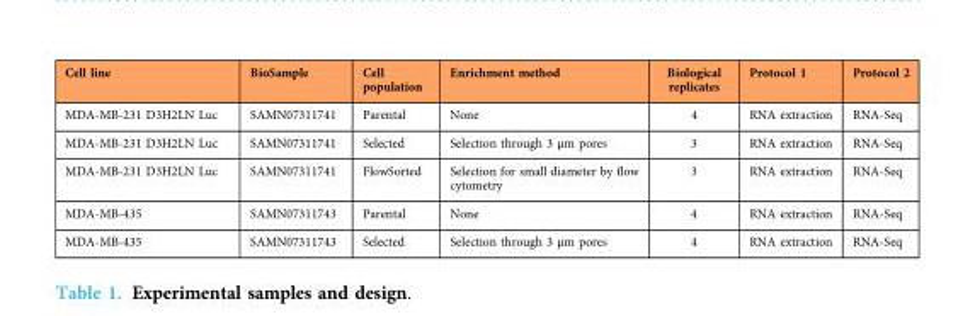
<table><thead><tr><td>Cell line</td><td>BioSample</td><td>Cell population</td><td>Enrichment method</td><td>Biological replicates</td><td>Protocol 1</td><td>Protocol 2</td></tr></thead><tbody><tr><td>MDA-MB-231 D3H2LN Luc</td><td>SAMN07311741</td><td>Parental</td><td>None</td><td>4</td><td>RNA extraction</td><td>RNA-Seq</td></tr><tr><td>MDA-MB-231 D3H2LN Luc</td><td>SAMN07311741</td><td>Selected</td><td>Selection through 3 μm pores</td><td>3</td><td>RNA extraction</td><td>RNA-Seq</td></tr><tr><td>MDA-MB-231 D3H2LN Luc</td><td>SAMN07311741</td><td>FlowSorted</td><td>Selection for small diameter by flow cytometry</td><td>3</td><td>RNA extraction</td><td>RNA-Seq</td></tr><tr><td>MDA-MB-435</td><td>SAMN07311743</td><td>Parental</td><td>None</td><td>4</td><td>RNA extraction</td><td>RNA-Seq</td></tr><tr><td>MDA-MB-435</td><td>SAMN07311743</td><td>Selected</td><td>Selection through 3 μm pores</td><td>4</td><td>RNA extraction</td><td>RNA-Seq</td></tr></tbody></table>